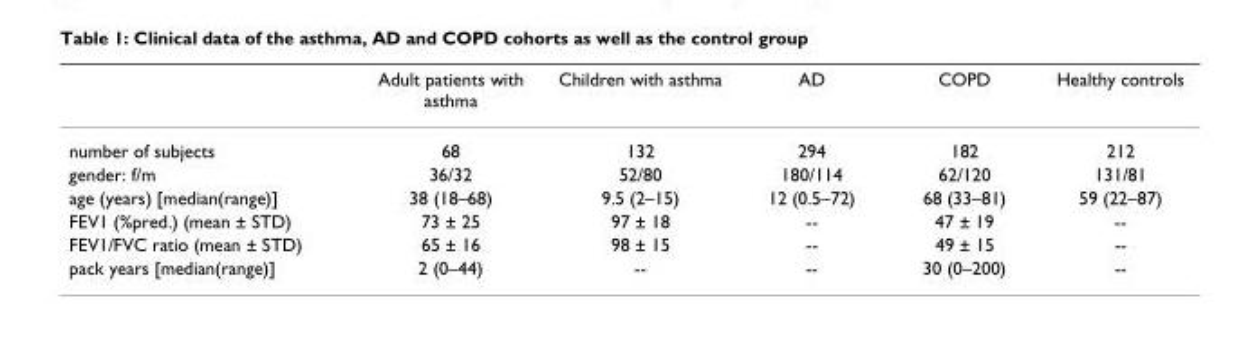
<table><thead><tr><td></td><td>Adult patients with asthma</td><td>Children with asthma</td><td>AD</td><td>COPD</td><td>Healthy controls</td></tr></thead><tbody><tr><td>number of subjects</td><td>68</td><td>132</td><td>294</td><td>182</td><td>212</td></tr><tr><td>gender: f/m</td><td>36/32</td><td>52/80</td><td>180/114</td><td>62/120</td><td>131/81</td></tr><tr><td>age (years) [median(range)]</td><td>38 (18–68)</td><td>9.5 (2–15)</td><td>12 (0.5–72)</td><td>68 (33–81)</td><td>59 (22–87)</td></tr><tr><td>FEV1 (%pred.) (mean ± STD)</td><td>73 ± 25</td><td>97 ± 18</td><td>--</td><td>47 ± 19</td><td>--</td></tr><tr><td>FEV1/FVC ratio (mean ± STD)</td><td>65 ± 16</td><td>98 ± 15</td><td>--</td><td>49 ± 15</td><td>--</td></tr><tr><td>pack years [median(range)]</td><td>2 (0–44)</td><td>--</td><td>--</td><td>30 (0–200)</td><td>--</td></tr></tbody></table>